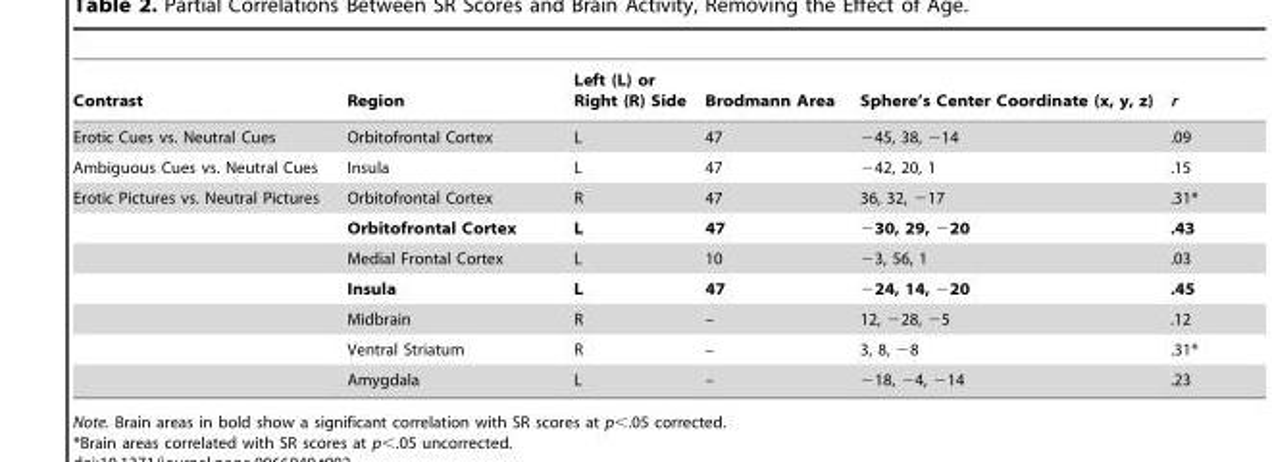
<table><thead><tr><td>Contrast</td><td>Region</td><td>Left (L) or Right (R) Side</td><td>Brodmann Area</td><td>Sphere’s Center Coordinate (x, y, z)</td><td>r</td></tr></thead><tbody><tr><td>Erotic Cues vs. Neutral Cues</td><td>Orbitofrontal Cortex</td><td>L</td><td>47</td><td>−45, 38, −14</td><td>.09</td></tr><tr><td>Ambiguous Cues vs. Neutral Cues</td><td>Insula</td><td>L</td><td>47</td><td>−42, 20, 1</td><td>.15</td></tr><tr><td rowspan="7">Erotic Pictures vs. Neutral Pictures</td><td>Orbitofrontal Cortex</td><td>R</td><td>47</td><td>36, 32, −17</td><td>.31*</td></tr><tr><td>Orbitofrontal Cortex</td><td>L</td><td>47</td><td>−30, 29, −20</td><td>.43</td></tr><tr><td>Medial Frontal Cortex</td><td>L</td><td>10</td><td>−3, 56, 1</td><td>.03</td></tr><tr><td>Insula</td><td>L</td><td>47</td><td>−24, 14, −20</td><td>.45</td></tr><tr><td>Midbrain</td><td>R</td><td>–</td><td>12, −28, −5</td><td>.12</td></tr><tr><td>Ventral Striatum</td><td>R</td><td>–</td><td>3, 8, −8</td><td>.31*</td></tr><tr><td>Amygdala</td><td>L</td><td>–</td><td>−18, −4, −14</td><td>.23</td></tr></tbody></table>